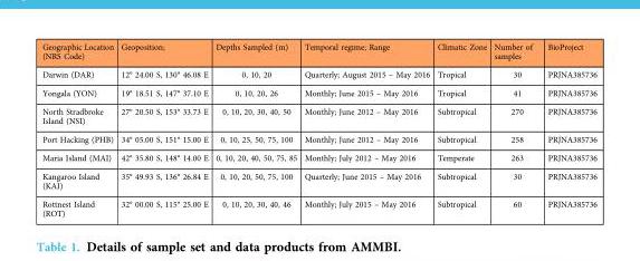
<table><thead><tr><td>Geographic Location (NRS Code)</td><td>Geoposition;</td><td>Depths Sampled (m)</td><td>Temporal regime; Range</td><td>Climatic Zone</td><td>Number of samples</td><td>BioProject</td></tr></thead><tbody><tr><td>Darwin (DAR)</td><td>12° 24.00 S, 130° 46.08 E</td><td>0, 10, 20</td><td>Quarterly; August 2015 – May 2016</td><td>Tropical</td><td>30</td><td>PRJNA385736</td></tr><tr><td>Yongala (YON)</td><td>19° 18.51 S, 147° 37.10 E</td><td>0, 10, 20, 26</td><td>Monthly; June 2015 – May 2016</td><td>Tropical</td><td>41</td><td>PRJNA385736</td></tr><tr><td>North Stradbroke Island (NSI)</td><td>27° 20.50 S, 153° 33.73 E</td><td>0, 10, 20, 30, 40, 50</td><td>Monthly; June 2012 – May 2016</td><td>Subtropical</td><td>270</td><td>PRJNA385736</td></tr><tr><td>Port Hacking (PHB)</td><td>34° 05.00 S, 151° 15.00 E</td><td>0, 10, 25, 50, 75, 100</td><td>Monthly; June 2012 – May 2016</td><td>Subtropical</td><td>258</td><td>PRJNA385736</td></tr><tr><td>Maria Island (MAI)</td><td>42° 35.80 S, 148° 14.00 E</td><td>0, 10, 20, 40, 50, 75, 85</td><td>Monthly; July 2012 – May 2016</td><td>Temperate</td><td>263</td><td>PRJNA385736</td></tr><tr><td>Kangaroo Island (KAI)</td><td>35° 49.93 S, 136° 26.84 E</td><td>0, 10, 20, 50, 75, 100</td><td>Quarterly; June 2015 – May 2016</td><td>Subtropical</td><td>30</td><td>PRJNA385736</td></tr><tr><td>Rottnest Island (ROT)</td><td>32° 00.00 S, 115° 25.00 E</td><td>0, 10, 20, 30, 40, 46</td><td>Monthly; July 2015 – May 2016</td><td>Subtropical</td><td>60</td><td>PRJNA385736</td></tr></tbody></table>